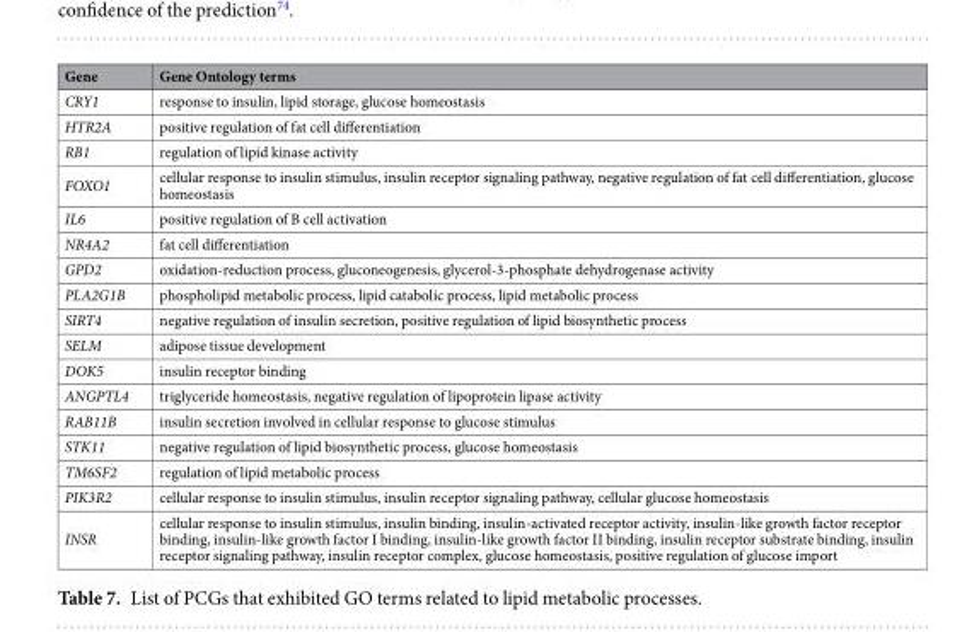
<table><thead><tr><td>Gene</td><td>Gene Ontology terms</td></tr></thead><tbody><tr><td>CRY1</td><td>response to insulin, lipid storage, glucose homeostasis</td></tr><tr><td>HTR2A</td><td>positive regulation of fat cell differentiation</td></tr><tr><td>RB1</td><td>regulation of lipid kinase activity</td></tr><tr><td>FOXO1</td><td>cellular response to insulin stimulus, insulin receptor signaling pathway, negative regulation of fat cell differentiation, glucose homeostasis</td></tr><tr><td>IL6</td><td>positive regulation of B cell activation</td></tr><tr><td>NR4A2</td><td>fat cell differentiation</td></tr><tr><td>GPD2</td><td>oxidation-reduction process, gluconeogenesis, glycerol-3-phosphate dehydrogenase activity</td></tr><tr><td>PLA2G1B</td><td>phospholipid metabolic process, lipid catabolic process, lipid metabolic process</td></tr><tr><td>SIRT4</td><td>negative regulation of insulin secretion, positive regulation of lipid biosynthetic process</td></tr><tr><td>SELM</td><td>adipose tissue development</td></tr><tr><td>DOK5</td><td>insulin receptor binding</td></tr><tr><td>ANGPTL4</td><td>triglyceride homeostasis, negative regulation of lipoprotein lipase activity</td></tr><tr><td>RAB11B</td><td>insulin secretion involved in cellular response to glucose stimulus</td></tr><tr><td>STK11</td><td>negative regulation of lipid biosynthetic process, glucose homeostasis</td></tr><tr><td>TM6SF2</td><td>regulation of lipid metabolic process</td></tr><tr><td>PIK3R2</td><td>cellular response to insulin stimulus, insulin receptor signaling pathway, cellular glucose homeostasis</td></tr><tr><td>INSR</td><td>cellular response to insulin stimulus, insulin binding, insulin-activated receptor activity, insulin-like growth factor receptor binding, insulin-like growth factor I binding, insulin-like growth factor II binding, insulin receptor substrate binding, insulin receptor signaling pathway, insulin receptor complex, glucose homeostasis, positive regulation of glucose import</td></tr></tbody></table>